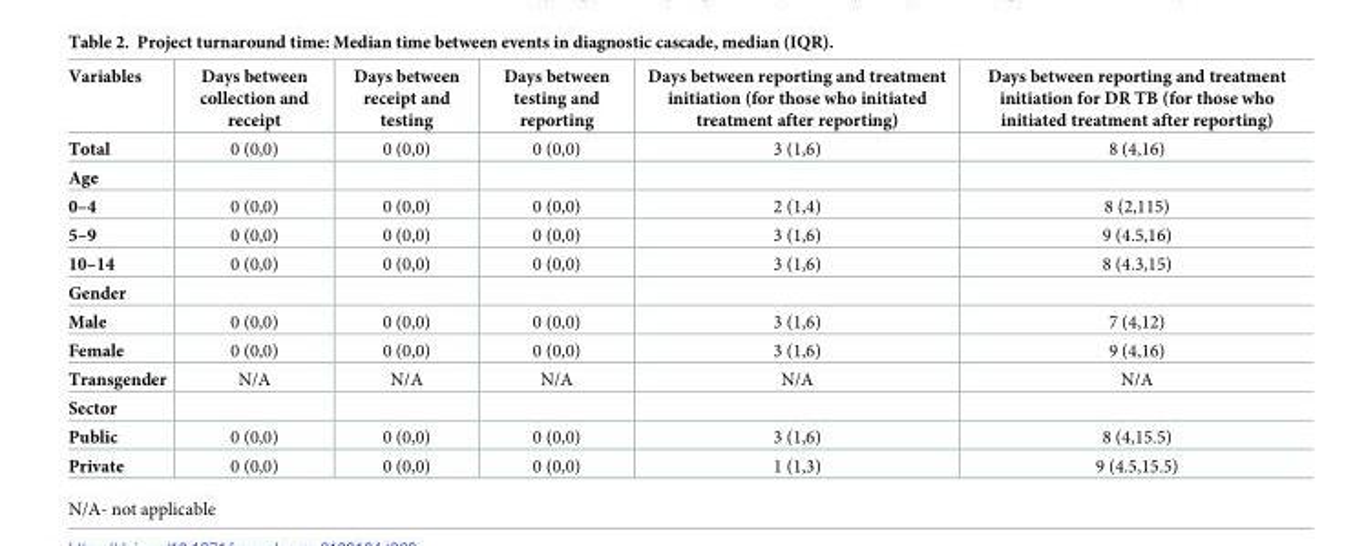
<table><thead><tr><td>Variables</td><td>Days between collection and receipt</td><td>Days between receipt and testing</td><td>Days between testing and reporting</td><td>Days between reporting and treatment initiation (for those who initiated treatment after reporting)</td><td>Days between reporting and treatment initiation for DR TB (for those who initiated treatment after reporting)</td></tr></thead><tbody><tr><td>Total</td><td>0 (0,0)</td><td>0 (0,0)</td><td>0 (0,0)</td><td>3 (1,6)</td><td>8 (4,16)</td></tr><tr><td colspan="6">Age</td></tr><tr><td>0–4</td><td>0 (0,0)</td><td>0 (0,0)</td><td>0 (0,0)</td><td>2 (1,4)</td><td>8 (2,115)</td></tr><tr><td>5–9</td><td>0 (0,0)</td><td>0 (0,0)</td><td>0 (0,0)</td><td>3 (1,6)</td><td>9 (4.5,16)</td></tr><tr><td>10–14</td><td>0 (0,0)</td><td>0 (0,0)</td><td>0 (0,0)</td><td>3 (1,6)</td><td>8 (4.3,15)</td></tr><tr><td colspan="6">Gender</td></tr><tr><td>Male</td><td>0 (0,0)</td><td>0 (0,0)</td><td>0 (0,0)</td><td>3 (1,6)</td><td>7 (4,12)</td></tr><tr><td>Female</td><td>0 (0,0)</td><td>0 (0,0)</td><td>0 (0,0)</td><td>3 (1,6)</td><td>9 (4,16)</td></tr><tr><td>Transgender</td><td>N/A</td><td>N/A</td><td>N/A</td><td>N/A</td><td>N/A</td></tr><tr><td colspan="6">Sector</td></tr><tr><td>Public</td><td>0 (0,0)</td><td>0 (0,0)</td><td>0 (0,0)</td><td>3 (1,6)</td><td>8 (4,15.5)</td></tr><tr><td>Private</td><td>0 (0,0)</td><td>0 (0,0)</td><td>0 (0,0)</td><td>1 (1,3)</td><td>9 (4.5,15.5)</td></tr></tbody></table>